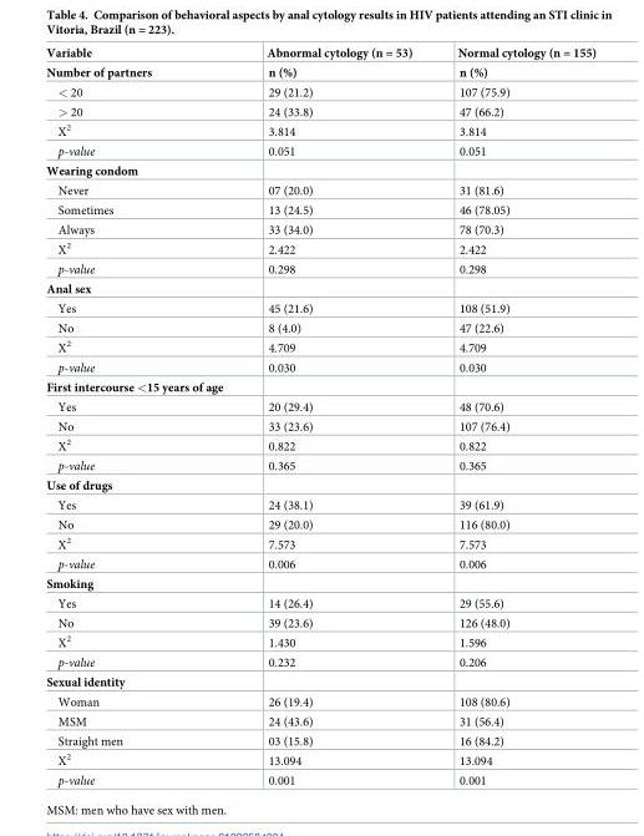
<table><thead><tr><td>Variable</td><td>Abnormal cytology (n = 53)</td><td>Normal cytology (n = 155)</td></tr></thead><tbody><tr><td>Number of partners</td><td>n (%)</td><td>n (%)</td></tr><tr><td>&lt; 20</td><td>29 (21.2)</td><td>107 (75.9)</td></tr><tr><td>&gt; 20</td><td>24 (33.8)</td><td>47 (66.2)</td></tr><tr><td>X<sup>2</sup></td><td>3.814</td><td>3.814</td></tr><tr><td>p-value</td><td>0.051</td><td>0.051</td></tr><tr><td colspan="3">Wearing condom</td></tr><tr><td>Never</td><td>07 (20.0)</td><td>31 (81.6)</td></tr><tr><td>Sometimes</td><td>13 (24.5)</td><td>46 (78.05)</td></tr><tr><td>Always</td><td>33 (34.0)</td><td>78 (70.3)</td></tr><tr><td>X<sup>2</sup></td><td>2.422</td><td>2.422</td></tr><tr><td>p-value</td><td>0.298</td><td>0.298</td></tr><tr><td colspan="3">Anal sex</td></tr><tr><td>Yes</td><td>45 (21.6)</td><td>108 (51.9)</td></tr><tr><td>No</td><td>8 (4.0)</td><td>47 (22.6)</td></tr><tr><td>X<sup>2</sup></td><td>4.709</td><td>4.709</td></tr><tr><td>p-value</td><td>0.030</td><td>0.030</td></tr><tr><td colspan="3">First intercourse &lt;15 years of age</td></tr><tr><td>Yes</td><td>20 (29.4)</td><td>48 (70.6)</td></tr><tr><td>No</td><td>33 (23.6)</td><td>107 (76.4)</td></tr><tr><td>X<sup>2</sup></td><td>0.822</td><td>0.822</td></tr><tr><td>p-value</td><td>0.365</td><td>0.365</td></tr><tr><td colspan="3">Use of drugs</td></tr><tr><td>Yes</td><td>24 (38.1)</td><td>39 (61.9)</td></tr><tr><td>No</td><td>29 (20.0)</td><td>116 (80.0)</td></tr><tr><td>X<sup>2</sup></td><td>7.573</td><td>7.573</td></tr><tr><td>p-value</td><td>0.006</td><td>0.006</td></tr><tr><td colspan="3">Smoking</td></tr><tr><td>Yes</td><td>14 (26.4)</td><td>29 (55.6)</td></tr><tr><td>No</td><td>39 (23.6)</td><td>126 (48.0)</td></tr><tr><td>X<sup>2</sup></td><td>1.430</td><td>1.596</td></tr><tr><td>p-value</td><td>0.232</td><td>0.206</td></tr><tr><td colspan="3">Sexual identity</td></tr><tr><td>Woman</td><td>26 (19.4)</td><td>108 (80.6)</td></tr><tr><td>MSM</td><td>24 (43.6)</td><td>31 (56.4)</td></tr><tr><td>Straight men</td><td>03 (15.8)</td><td>16 (84.2)</td></tr><tr><td>X<sup>2</sup></td><td>13.094</td><td>13.094</td></tr><tr><td>p-value</td><td>0.001</td><td>0.001</td></tr></tbody></table>